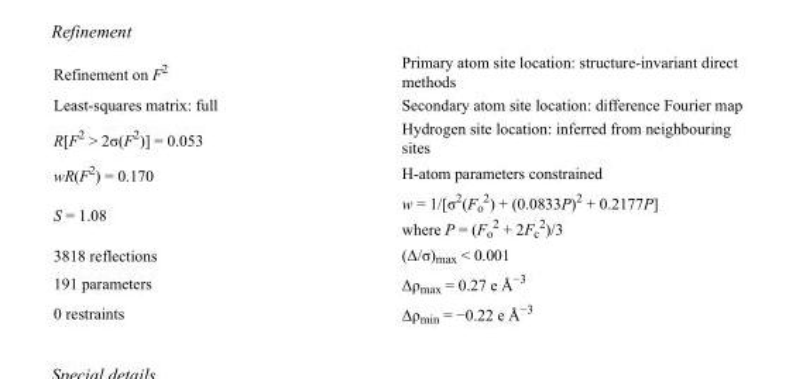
<table><tbody><tr><td>Refinement on F<sup>2</sup></td><td>Primary atom site location: structure-invariant direct methods</td></tr><tr><td>Least-squares matrix: full</td><td>Secondary atom site location: difference Fourier map</td></tr><tr><td>R[F<sup>2</sup> &gt; 2σ(F<sup>2</sup>)] = 0.053</td><td>Hydrogen site location: inferred from neighbouring sites</td></tr><tr><td>wR(F<sup>2</sup>) = 0.170</td><td>H-atom parameters constrained</td></tr><tr><td>S = 1.08</td><td>w = 1/[σ<sup>2</sup>(F<sub>o</sub> <sup>2</sup>) + (0.0833P)<sup>2</sup> + 0.2177P] where P = (F<sub>o</sub> <sup>2</sup> + 2F<sub>c</sub> <sup>2</sup>)/3</td></tr><tr><td>3818 reflections</td><td>(Δ/σ)<sub>max</sub> &lt; 0.001</td></tr><tr><td>191 parameters</td><td>Δρ<sub>max</sub> = 0.27 e Å<sup>−3</sup></td></tr><tr><td>0 restraints</td><td>Δρ<sub>min</sub> = −0.22 e Å<sup>−3</sup></td></tr></tbody></table>